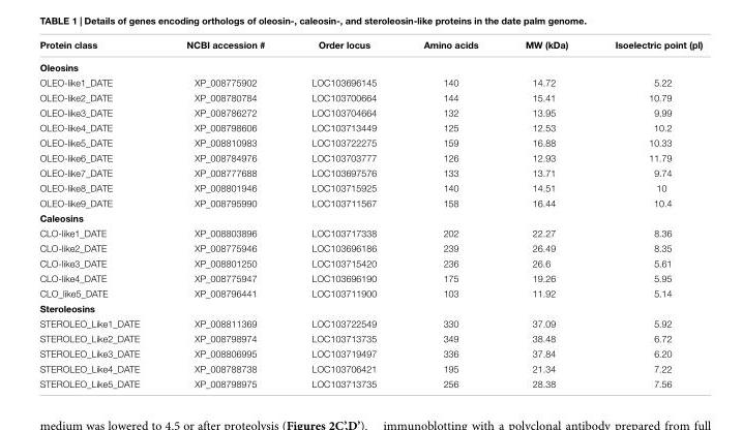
<table><thead><tr><td>Protein class</td><td>NCBI accession #</td><td>Order locus</td><td>Amino acids</td><td>MW (kDa)</td><td>Isoelectric point (pl)</td></tr></thead><tbody><tr><td colspan="6">Oleosins</td></tr><tr><td>OLEO-like1_DATE</td><td>XP_008775902</td><td>LOC103696145</td><td>140</td><td>14.72</td><td>5.22</td></tr><tr><td>OLEO-like2_DATE</td><td>XP_008780784</td><td>LOC103700664</td><td>144</td><td>15.41</td><td>10.79</td></tr><tr><td>OLEO-like3_DATE</td><td>XP_008786272</td><td>LOC103704664</td><td>132</td><td>13.95</td><td>9.99</td></tr><tr><td>OLEO-like4_DATE</td><td>XP_008798606</td><td>LOC103713449</td><td>125</td><td>12.53</td><td>10.2</td></tr><tr><td>OLEO-like5_DATE</td><td>XP_008810983</td><td>LOC103722275</td><td>159</td><td>16.88</td><td>10.33</td></tr><tr><td>OLEO-like6_DATE</td><td>XP_008784976</td><td>LOC103703777</td><td>126</td><td>12.93</td><td>11.79</td></tr><tr><td>OLEO-like7_DATE</td><td>XP_008777688</td><td>LOC103697576</td><td>133</td><td>13.71</td><td>9.74</td></tr><tr><td>OLEO-like8_DATE</td><td>XP_008801946</td><td>LOC103715925</td><td>140</td><td>14.51</td><td>10</td></tr><tr><td>OLEO-like9_DATE</td><td>XP_008795990</td><td>LOC103711567</td><td>158</td><td>16.44</td><td>10.4</td></tr><tr><td colspan="6">Caleosins</td></tr><tr><td>CLO-like1_DATE</td><td>XP_008803896</td><td>LOC103717338</td><td>202</td><td>22.27</td><td>8.36</td></tr><tr><td>CLO-like2_DATE</td><td>XP_008775946</td><td>LOC103696186</td><td>239</td><td>26.49</td><td>8.35</td></tr><tr><td>CLO-like3_DATE</td><td>XP_008801250</td><td>LOC103715420</td><td>236</td><td>26.6</td><td>5.61</td></tr><tr><td>CLO-like4_DATE</td><td>XP_008775947</td><td>LOC103696190</td><td>175</td><td>19.26</td><td>5.95</td></tr><tr><td>CLO_like5_DATE</td><td>XP_008796441</td><td>LOC103711900</td><td>103</td><td>11.92</td><td>5.14</td></tr><tr><td colspan="6">Steroleosins</td></tr><tr><td>STEROLEO_Like1_DATE</td><td>XP_008811369</td><td>LOC103722549</td><td>330</td><td>37.09</td><td>5.92</td></tr><tr><td>STEROLEO_Like2_DATE</td><td>XP_008798974</td><td>LOC103713735</td><td>349</td><td>38.48</td><td>6.72</td></tr><tr><td>STEROLEO_Like3_DATE</td><td>XP_008806995</td><td>LOC103719497</td><td>336</td><td>37.84</td><td>6.20</td></tr><tr><td>STEROLEO_Like4_DATE</td><td>XP_008788738</td><td>LOC103706421</td><td>195</td><td>21.34</td><td>7.22</td></tr><tr><td>STEROLEO_Like5_DATE</td><td>XP_008798975</td><td>LOC103713735</td><td>256</td><td>28.38</td><td>7.56</td></tr></tbody></table>